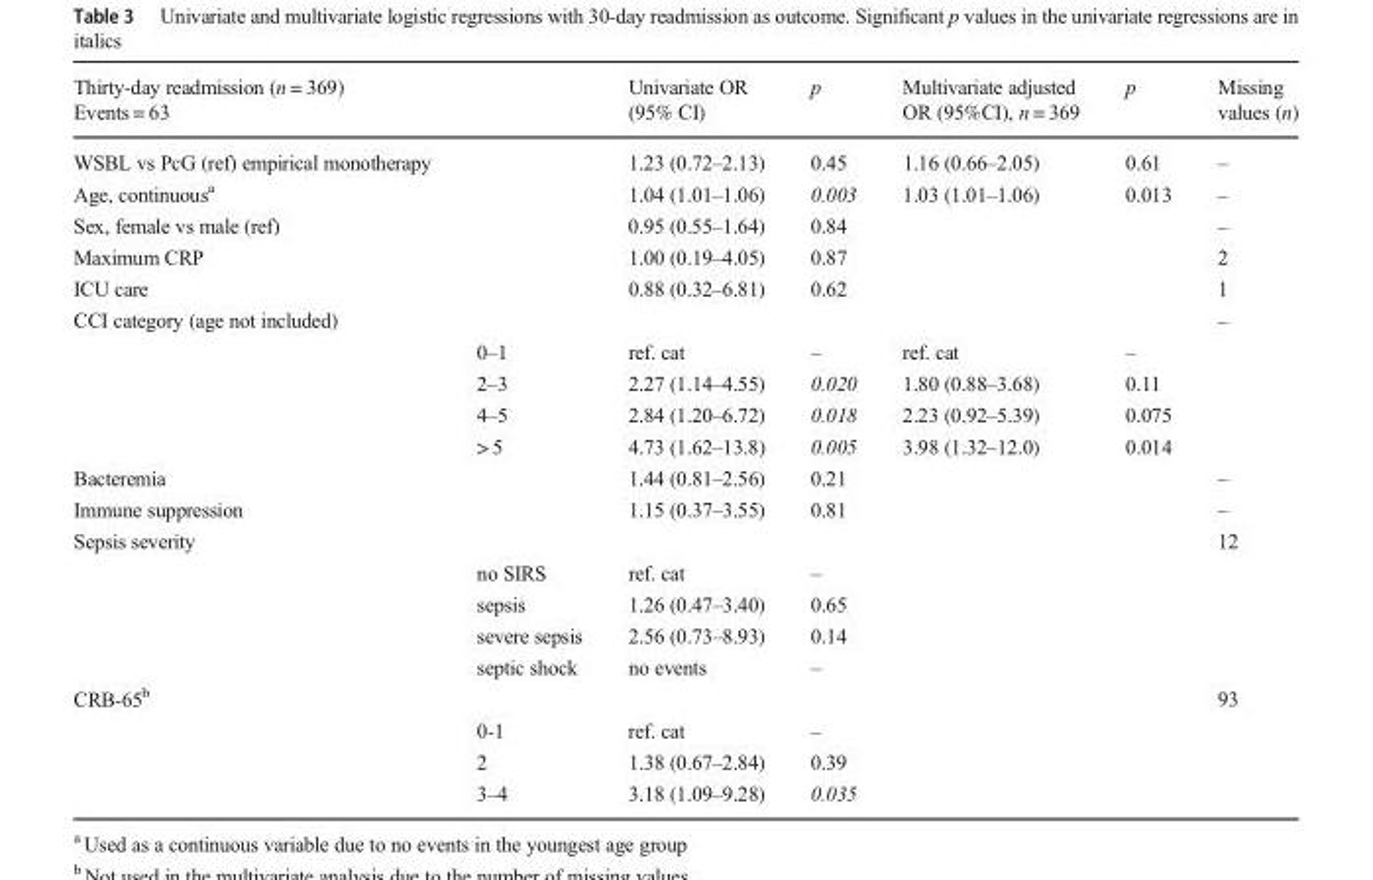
<table><thead><tr><td>Thirty-day readmission (n = 369) Events = 63</td><td></td><td>Univariate OR (95% CI)</td><td>p</td><td>Multivariate adjusted OR (95%CI), n = 369</td><td>p</td><td>Missing values (n)</td></tr></thead><tbody><tr><td>WSBL vs PcG (ref) empirical monotherapy</td><td></td><td>1.23 (0.72–2.13)</td><td>0.45</td><td>1.16 (0.66–2.05)</td><td>0.61</td><td>–</td></tr><tr><td>Age, continuous<sup>a</sup></td><td></td><td>1.04 (1.01–1.06)</td><td>0.003</td><td>1.03 (1.01–1.06)</td><td>0.013</td><td>–</td></tr><tr><td>Sex, female vs male (ref)</td><td></td><td>0.95 (0.55–1.64)</td><td>0.84</td><td></td><td></td><td>–</td></tr><tr><td>Maximum CRP</td><td></td><td>1.00 (0.19–4.05)</td><td>0.87</td><td></td><td></td><td>2</td></tr><tr><td>ICU care</td><td></td><td>0.88 (0.32–6.81)</td><td>0.62</td><td></td><td></td><td>1</td></tr><tr><td rowspan="5">CCI category (age not included)</td><td></td><td></td><td></td><td></td><td></td><td>–</td></tr><tr><td>0–1</td><td>ref. cat</td><td>–</td><td>ref. cat</td><td>–</td><td></td></tr><tr><td>2–3</td><td>2.27 (1.14–4.55)</td><td>0.020</td><td>1.80 (0.88–3.68)</td><td>0.11</td><td></td></tr><tr><td>4–5</td><td>2.84 (1.20–6.72)</td><td>0.018</td><td>2.23 (0.92–5.39)</td><td>0.075</td><td></td></tr><tr><td>&gt; 5</td><td>4.73 (1.62–13.8)</td><td>0.005</td><td>3.98 (1.32–12.0)</td><td>0.014</td><td></td></tr><tr><td>Bacteremia</td><td></td><td>1.44 (0.81–2.56)</td><td>0.21</td><td></td><td></td><td>–</td></tr><tr><td>Immune suppression</td><td></td><td>1.15 (0.37–3.55)</td><td>0.81</td><td></td><td></td><td>–</td></tr><tr><td rowspan="5">Sepsis severity</td><td></td><td></td><td></td><td></td><td></td><td>12</td></tr><tr><td>no SIRS</td><td>ref. cat</td><td>–</td><td></td><td></td><td></td></tr><tr><td>sepsis</td><td>1.26 (0.47–3.40)</td><td>0.65</td><td></td><td></td><td></td></tr><tr><td>severe sepsis</td><td>2.56 (0.73–8.93)</td><td>0.14</td><td></td><td></td><td></td></tr><tr><td>septic shock</td><td>no events</td><td>–</td><td></td><td></td><td></td></tr><tr><td rowspan="4">CRB-65<sup>b</sup></td><td></td><td></td><td></td><td></td><td></td><td>93</td></tr><tr><td>0-1</td><td>ref. cat</td><td>–</td><td></td><td></td><td></td></tr><tr><td>2</td><td>1.38 (0.67–2.84)</td><td>0.39</td><td></td><td></td><td></td></tr><tr><td>3–4</td><td>3.18 (1.09–9.28)</td><td>0.035</td><td></td><td></td><td></td></tr></tbody></table>